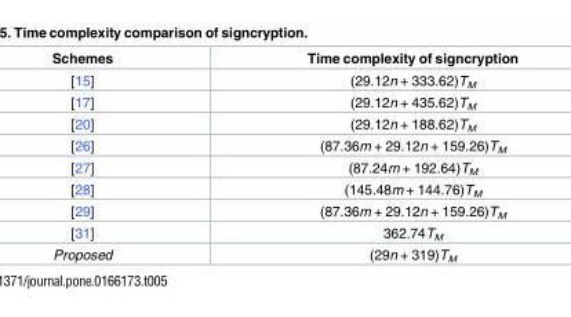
<table><thead><tr><td>Schemes</td><td>Time complexity of signcryption</td></tr></thead><tbody><tr><td>[15]</td><td>(29.12n + 333.62)T<sub>M</sub></td></tr><tr><td>[17]</td><td>(29.12n + 435.62)T<sub>M</sub></td></tr><tr><td>[20]</td><td>(29.12n + 188.62)T<sub>M</sub></td></tr><tr><td>[26]</td><td>(87.36m + 29.12n + 159.26)T<sub>M</sub></td></tr><tr><td>[27]</td><td>(87.24m + 192.64)T<sub>M</sub></td></tr><tr><td>[28]</td><td>(145.48m + 144.76)T<sub>M</sub></td></tr><tr><td>[29]</td><td>(87.36m + 29.12n + 159.26)T<sub>M</sub></td></tr><tr><td>[31]</td><td>362.74T<sub>M</sub></td></tr><tr><td>Proposed</td><td>(29n + 319)T<sub>M</sub></td></tr></tbody></table>